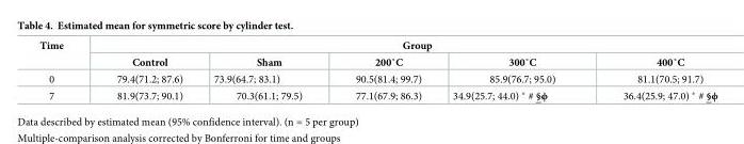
<table><thead><tr><td rowspan="2">Time</td><td colspan="5">Group</td></tr><tr><td>Control</td><td>Sham</td><td>200˚C</td><td>300˚C</td><td>400˚C</td></tr></thead><tbody><tr><td>0</td><td>79.4(71.2; 87.6)</td><td>73.9(64.7; 83.1)</td><td>90.5(81.4; 99.7)</td><td>85.9(76.7; 95.0)</td><td>81.1(70.5; 91.7)</td></tr><tr><td>7</td><td>81.9(73.7; 90.1)</td><td>70.3(61.1; 79.5)</td><td>77.1(67.9; 86.3)</td><td>34.9(25.7; 44.0) * # §ϕ</td><td>36.4(25.9; 47.0) � #</td></tr></tbody></table>